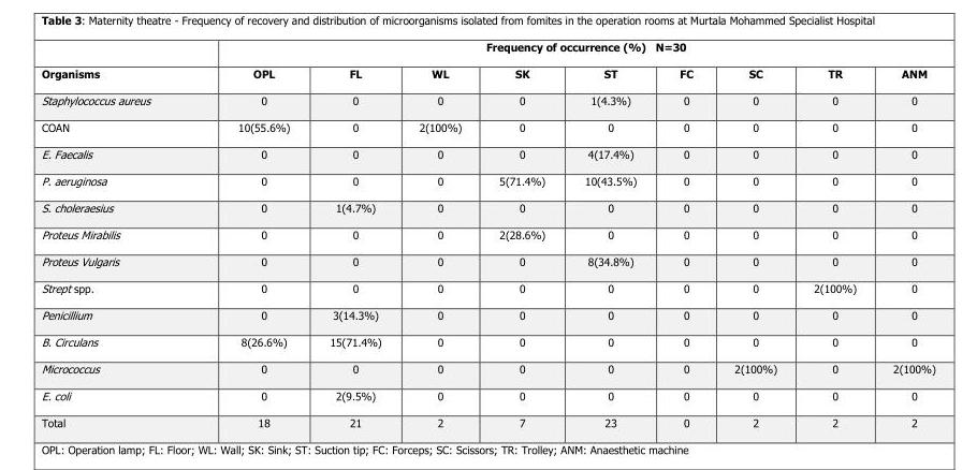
<table><thead><tr><td rowspan="2">Organisms</td><td colspan="9">Frequency of occurrence (%) N=30</td></tr><tr><td>OPL</td><td>FL</td><td>WL</td><td>SK</td><td>ST</td><td>FC</td><td>SC</td><td>TR</td><td>ANM</td></tr></thead><tbody><tr><td>Staphylococcus aureus</td><td>0</td><td>0</td><td>0</td><td>0</td><td>1(4.3%)</td><td>0</td><td>0</td><td>0</td><td>0</td></tr><tr><td>COAN</td><td>10(55.6%)</td><td>0</td><td>2(100%)</td><td>0</td><td>0</td><td>0</td><td>0</td><td>0</td><td>0</td></tr><tr><td>E. Faecalis</td><td>0</td><td>0</td><td>0</td><td>0</td><td>4(17.4%)</td><td>0</td><td>0</td><td>0</td><td>0</td></tr><tr><td>P. aeruginosa</td><td>0</td><td>0</td><td>0</td><td>5(71.4%)</td><td>10(43.5%)</td><td>0</td><td>0</td><td>0</td><td>0</td></tr><tr><td>S. choleraesius</td><td>0</td><td>1(4.7%)</td><td>0</td><td>0</td><td>0</td><td>0</td><td>0</td><td>0</td><td>0</td></tr><tr><td>Proteus Mirabilis</td><td>0</td><td>0</td><td>0</td><td>2(28.6%)</td><td>0</td><td>0</td><td>0</td><td>0</td><td>0</td></tr><tr><td>Proteus Vulgaris</td><td>0</td><td>0</td><td>0</td><td>0</td><td>8(34.8%)</td><td>0</td><td>0</td><td>0</td><td>0</td></tr><tr><td>Strept spp.</td><td>0</td><td>0</td><td>0</td><td>0</td><td>0</td><td>0</td><td>0</td><td>2(100%)</td><td>0</td></tr><tr><td>Penicillium</td><td>0</td><td>3(14.3%)</td><td>0</td><td>0</td><td>0</td><td>0</td><td>0</td><td>0</td><td>0</td></tr><tr><td>B. Circulans</td><td>8(26.6%)</td><td>15(71.4%)</td><td>0</td><td>0</td><td>0</td><td>0</td><td>0</td><td>0</td><td>0</td></tr><tr><td>Micrococcus</td><td>0</td><td>0</td><td>0</td><td>0</td><td>0</td><td>0</td><td>2(100%)</td><td>0</td><td>2(100%)</td></tr><tr><td>E. coli</td><td>0</td><td>2(9.5%)</td><td>0</td><td>0</td><td>0</td><td>0</td><td>0</td><td>0</td><td>0</td></tr><tr><td>Total</td><td>18</td><td>21</td><td>2</td><td>7</td><td>23</td><td>0</td><td>2</td><td>2</td><td>2</td></tr></tbody></table>